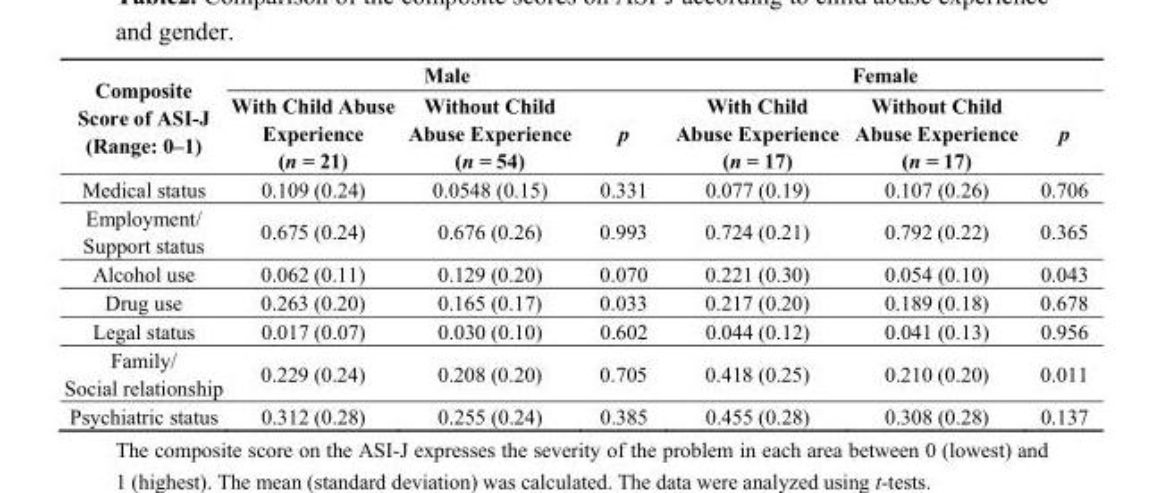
<table><thead><tr><td rowspan="2">Composite Score of ASI-J (Range: 0–1)</td><td colspan="3">Male</td><td colspan="3">Female</td></tr><tr><td>With Child Abuse Experience (n = 21)</td><td>Without Child Abuse Experience (n = 54)</td><td>p</td><td>With Child Abuse Experience (n = 17)</td><td>Without Child Abuse Experience (n = 17)</td><td>p</td></tr></thead><tbody><tr><td>Medical status</td><td>0.109 (0.24)</td><td>0.0548 (0.15)</td><td>0.331</td><td>0.077 (0.19)</td><td>0.107 (0.26)</td><td>0.706</td></tr><tr><td>Employment/ Support status</td><td>0.675 (0.24)</td><td>0.676 (0.26)</td><td>0.993</td><td>0.724 (0.21)</td><td>0.792 (0.22)</td><td>0.365</td></tr><tr><td>Alcohol use</td><td>0.062 (0.11)</td><td>0.129 (0.20)</td><td>0.070</td><td>0.221 (0.30)</td><td>0.054 (0.10)</td><td>0.043</td></tr><tr><td>Drug use</td><td>0.263 (0.20)</td><td>0.165 (0.17)</td><td>0.033</td><td>0.217 (0.20)</td><td>0.189 (0.18)</td><td>0.678</td></tr><tr><td>Legal status</td><td>0.017 (0.07)</td><td>0.030 (0.10)</td><td>0.602</td><td>0.044 (0.12)</td><td>0.041 (0.13)</td><td>0.956</td></tr><tr><td>Family/ Social relationship</td><td>0.229 (0.24)</td><td>0.208 (0.20)</td><td>0.705</td><td>0.418 (0.25)</td><td>0.210 (0.20)</td><td>0.011</td></tr><tr><td>Psychiatric status</td><td>0.312 (0.28)</td><td>0.255 (0.24)</td><td>0.385</td><td>0.455 (0.28)</td><td>0.308 (0.28)</td><td>0.137</td></tr></tbody></table>